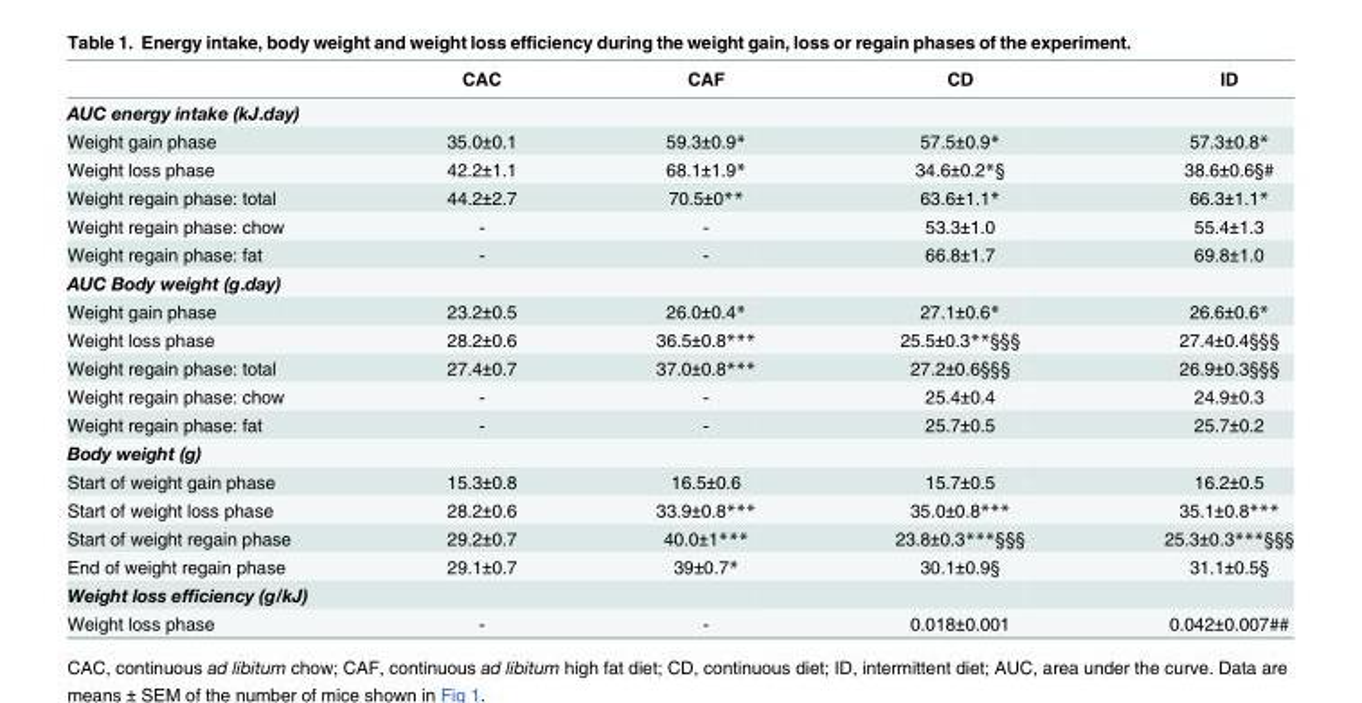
<table><thead><tr><td></td><td>CAC</td><td>CAF</td><td>CD</td><td>ID</td></tr></thead><tbody><tr><td colspan="5">AUC energy intake (kJ.day)</td></tr><tr><td>Weight gain phase</td><td>35.0±0.1</td><td>59.3±0.9*</td><td>57.5±0.9*</td><td>57.3±0.8*</td></tr><tr><td>Weight loss phase</td><td>42.2±1.1</td><td>68.1±1.9*</td><td>34.6±0.2*§</td><td>38.6±0.6§#</td></tr><tr><td>Weight regain phase: total</td><td>44.2±2.7</td><td>70.5±0**</td><td>63.6±1.1*</td><td>66.3±1.1*</td></tr><tr><td>Weight regain phase: chow</td><td>-</td><td>-</td><td>53.3±1.0</td><td>55.4±1.3</td></tr><tr><td>Weight regain phase: fat</td><td>-</td><td>-</td><td>66.8±1.7</td><td>69.8±1.0</td></tr><tr><td colspan="5">AUC Body weight (g.day)</td></tr><tr><td>Weight gain phase</td><td>23.2±0.5</td><td>26.0±0.4*</td><td>27.1±0.6*</td><td>26.6±0.6*</td></tr><tr><td>Weight loss phase</td><td>28.2±0.6</td><td>36.5±0.8***</td><td>25.5±0.3**§§§</td><td>27.4±0.4§§§</td></tr><tr><td>Weight regain phase: total</td><td>27.4±0.7</td><td>37.0±0.8***</td><td>27.2±0.6§§§</td><td>26.9±0.3§§§</td></tr><tr><td>Weight regain phase: chow</td><td>-</td><td>-</td><td>25.4±0.4</td><td>24.9±0.3</td></tr><tr><td>Weight regain phase: fat</td><td>-</td><td>-</td><td>25.7±0.5</td><td>25.7±0.2</td></tr><tr><td colspan="5">Body weight (g)</td></tr><tr><td>Start of weight gain phase</td><td>15.3±0.8</td><td>16.5±0.6</td><td>15.7±0.5</td><td>16.2±0.5</td></tr><tr><td>Start of weight loss phase</td><td>28.2±0.6</td><td>33.9±0.8***</td><td>35.0±0.8***</td><td>35.1±0.8***</td></tr><tr><td>Start of weight regain phase</td><td>29.2±0.7</td><td>40.0±1***</td><td>23.8±0.3***§§§</td><td>25.3±0.3***§§§</td></tr><tr><td>End of weight regain phase</td><td>29.1±0.7</td><td>39±0.7*</td><td>30.1±0.9§</td><td>31.1±0.5§</td></tr><tr><td colspan="5">Weight loss efficiency (g/kJ)</td></tr><tr><td>Weight loss phase</td><td>-</td><td>-</td><td>0.018±0.001</td><td>0.042±0.007##</td></tr></tbody></table>